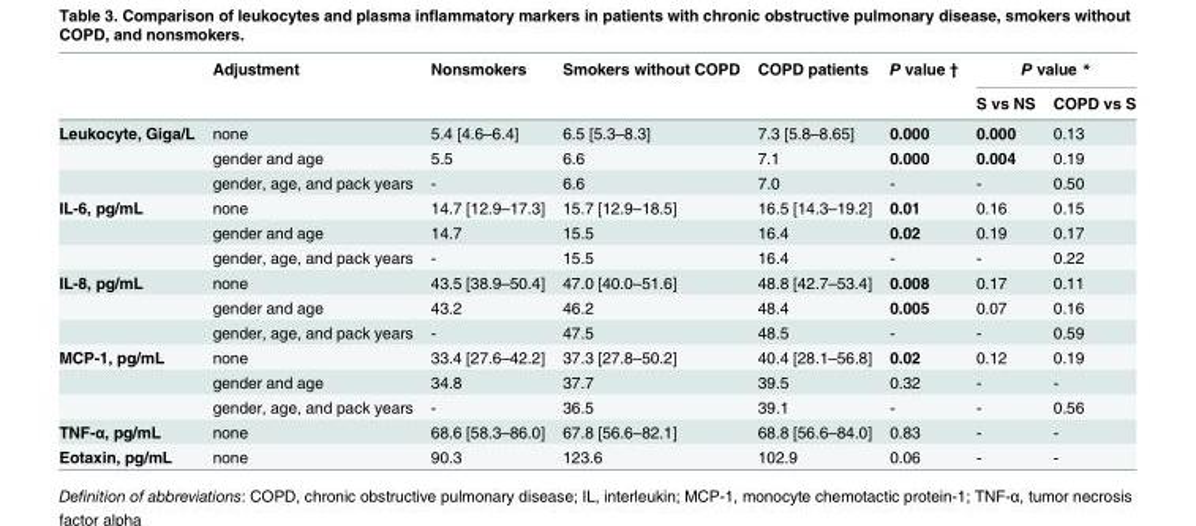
<table><thead><tr><td rowspan="2"></td><td rowspan="2">Adjustment</td><td rowspan="2">Nonsmokers</td><td rowspan="2">Smokers without COPD</td><td rowspan="2">COPD patients</td><td rowspan="2">P value †</td><td colspan="2">P value *</td></tr><tr><td>S vs NS</td><td>COPD vs S</td></tr></thead><tbody><tr><td rowspan="3">Leukocyte, Giga/L</td><td>none</td><td>5.4 [4.6–6.4]</td><td>6.5 [5.3–8.3]</td><td>7.3 [5.8–8.65]</td><td>0.000</td><td>0.000</td><td>0.13</td></tr><tr><td>gender and age</td><td>5.5</td><td>6.6</td><td>7.1</td><td>0.000</td><td>0.004</td><td>0.19</td></tr><tr><td>gender, age, and pack years</td><td>-</td><td>6.6</td><td>7.0</td><td>-</td><td>-</td><td>0.50</td></tr><tr><td rowspan="3">IL-6, pg/mL</td><td>none</td><td>14.7 [12.9–17.3]</td><td>15.7 [12.9–18.5]</td><td>16.5 [14.3–19.2]</td><td>0.01</td><td>0.16</td><td>0.15</td></tr><tr><td>gender and age</td><td>14.7</td><td>15.5</td><td>16.4</td><td>0.02</td><td>0.19</td><td>0.17</td></tr><tr><td>gender, age, and pack years</td><td>-</td><td>15.5</td><td>16.4</td><td>-</td><td>-</td><td>0.22</td></tr><tr><td rowspan="3">IL-8, pg/mL</td><td>none</td><td>43.5 [38.9–50.4]</td><td>47.0 [40.0–51.6]</td><td>48.8 [42.7–53.4]</td><td>0.008</td><td>0.17</td><td>0.11</td></tr><tr><td>gender and age</td><td>43.2</td><td>46.2</td><td>48.4</td><td>0.005</td><td>0.07</td><td>0.16</td></tr><tr><td>gender, age, and pack years</td><td>-</td><td>47.5</td><td>48.5</td><td>-</td><td>-</td><td>0.59</td></tr><tr><td rowspan="3">MCP-1, pg/mL</td><td>none</td><td>33.4 [27.6–42.2]</td><td>37.3 [27.8–50.2]</td><td>40.4 [28.1–56.8]</td><td>0.02</td><td>0.12</td><td>0.19</td></tr><tr><td>gender and age</td><td>34.8</td><td>37.7</td><td>39.5</td><td>0.32</td><td>-</td><td>-</td></tr><tr><td>gender, age, and pack years</td><td>-</td><td>36.5</td><td>39.1</td><td>-</td><td>-</td><td>0.56</td></tr><tr><td>TNF-α, pg/mL</td><td>none</td><td>68.6 [58.3–86.0]</td><td>67.8 [56.6–82.1]</td><td>68.8 [56.6–84.0]</td><td>0.83</td><td>-</td><td>-</td></tr><tr><td>Eotaxin, pg/mL</td><td>none</td><td>90.3</td><td>123.6</td><td>102.9</td><td>0.06</td><td>-</td><td>-</td></tr></tbody></table>